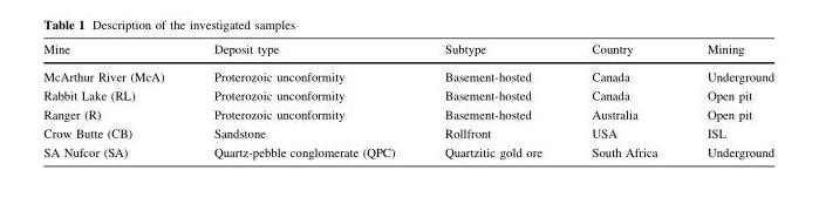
<table><thead><tr><td>Mine</td><td>Deposit type</td><td>Subtype</td><td>Country</td><td>Mining</td></tr></thead><tbody><tr><td>McArthur River (McA)</td><td>Proterozoic unconformity</td><td>Basement-hosted</td><td>Canada</td><td>Underground</td></tr><tr><td>Rabbit Lake (RL)</td><td>Proterozoic unconformity</td><td>Basement-hosted</td><td>Canada</td><td>Open pit</td></tr><tr><td>Ranger (R)</td><td>Proterozoic unconformity</td><td>Basement-hosted</td><td>Australia</td><td>Open pit</td></tr><tr><td>Crow Butte (CB)</td><td>Sandstone</td><td>Rollfront</td><td>USA</td><td>ISL</td></tr><tr><td>SA Nufcor (SA)</td><td>Quartz-pebble conglomerate (QPC)</td><td>Quartzitic gold ore</td><td>South Africa</td><td>Underground</td></tr></tbody></table>